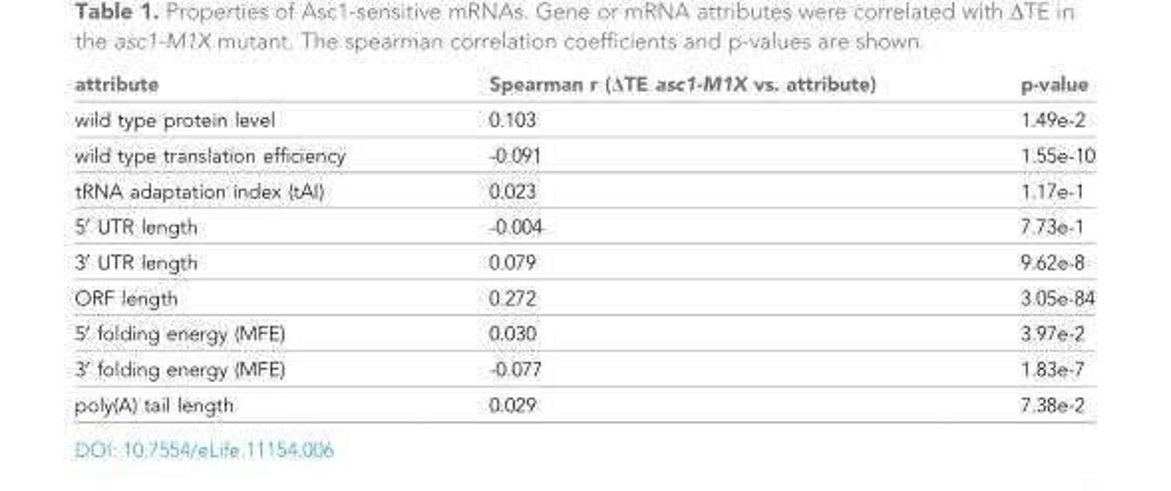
<table><thead><tr><td>attribute</td><td>Spearman r (∆TE asc1-M1X vs. attribute)</td><td>p-value</td></tr></thead><tbody><tr><td>wild type protein level</td><td>0.103</td><td>1.49e-2</td></tr><tr><td>wild type translation efficiency</td><td>-0.091</td><td>1.55e-10</td></tr><tr><td>tRNA adaptation index (tAI)</td><td>0.023</td><td>1.17e-1</td></tr><tr><td>5′ UTR length</td><td>-0.004</td><td>7.73e-1</td></tr><tr><td>3′ UTR length</td><td>0.079</td><td>9.62e-8</td></tr><tr><td>ORF length</td><td>0.272</td><td>3.05e-84</td></tr><tr><td>5′ folding energy (MFE)</td><td>0.030</td><td>3.97e-2</td></tr><tr><td>3′ folding energy (MFE)</td><td>-0.077</td><td>1.83e-7</td></tr><tr><td>poly(A) tail length</td><td>0.029</td><td>7.38e-2</td></tr></tbody></table>